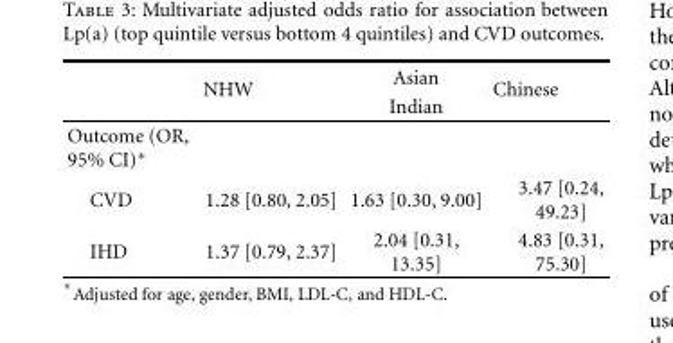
<table><thead><tr><td rowspan="2"></td><td rowspan="2">NHW</td><td rowspan="2">Asian Indian</td><td rowspan="2">Chinese</td></tr><tr></tr></thead><tbody><tr><td colspan="4">Outcome (OR, 95% CI)∗</td></tr><tr><td>CVD</td><td>1.28 [0.80, 2.05]</td><td>1.63 [0.30, 9.00]</td><td>3.47 [0.24, 49.23]</td></tr><tr><td>IHD</td><td>1.37 [0.79, 2.37]</td><td>2.04 [0.31, 13.35]</td><td>4.83 [0.31, 75.30]</td></tr></tbody></table>